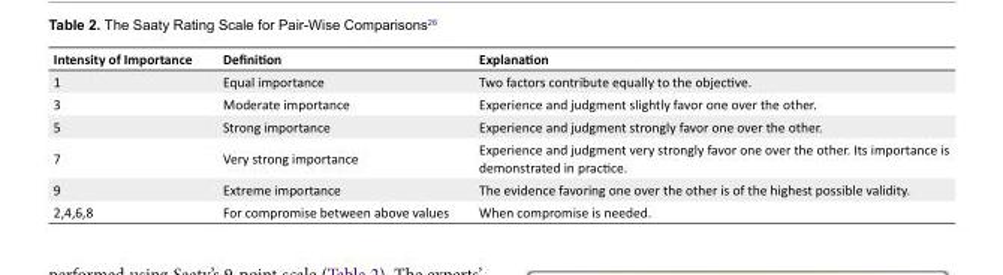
<table><tbody><tr><td>Intensity of Importance</td><td>Definition</td><td>Explanation</td></tr><tr><td>1</td><td>Equal importance</td><td>Two factors contribute equally to the objective.</td></tr><tr><td>3</td><td>Moderate importance</td><td>Experience and judgment slightly favor one over the other.</td></tr><tr><td>5</td><td>Strong importance</td><td>Experience and judgment strongly favor one over the other.</td></tr><tr><td>7</td><td>Very strong importance</td><td>Experience and judgment very strongly favor one over the other. Its importance is demonstrated in practice.</td></tr><tr><td>9</td><td>Extreme importance</td><td>The evidence favoring one over the other is of the highest possible validity.</td></tr><tr><td>2,4,6,8</td><td>For compromise between above values</td><td>When compromise is needed.</td></tr></tbody></table>